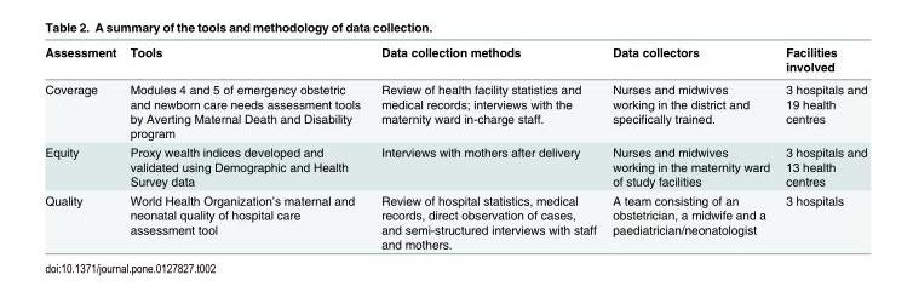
<table><thead><tr><td>Assessment</td><td>Tools</td><td>Data collection methods</td><td>Data collectors</td><td>Facilities involved</td></tr></thead><tbody><tr><td>Coverage</td><td>Modules 4 and 5 of emergency obstetric and newborn care needs assessment tools by Averting Maternal Death and Disability program</td><td>Review of health facility statistics and medical records; interviews with the maternity ward in-charge staff.</td><td>Nurses and midwives working in the district and specifically trained.</td><td>3 hospitals and 19 health centres</td></tr><tr><td>Equity</td><td>Proxy wealth indices developed and validated using Demographic and Health Survey data</td><td>Interviews with mothers after delivery</td><td>Nurses and midwives working in the maternity ward of study facilities</td><td>3 hospitals and 13 health centres</td></tr><tr><td>Quality</td><td>World Health Organization’s maternal and neonatal quality of hospital care assessment tool</td><td>Review of hospital statistics, medical records, direct observation of cases, and semi-structured interviews with staff and mothers.</td><td>A team consisting of an obstetrician, a midwife and a paediatrician/neonatologist</td><td>3 hospitals</td></tr></tbody></table>